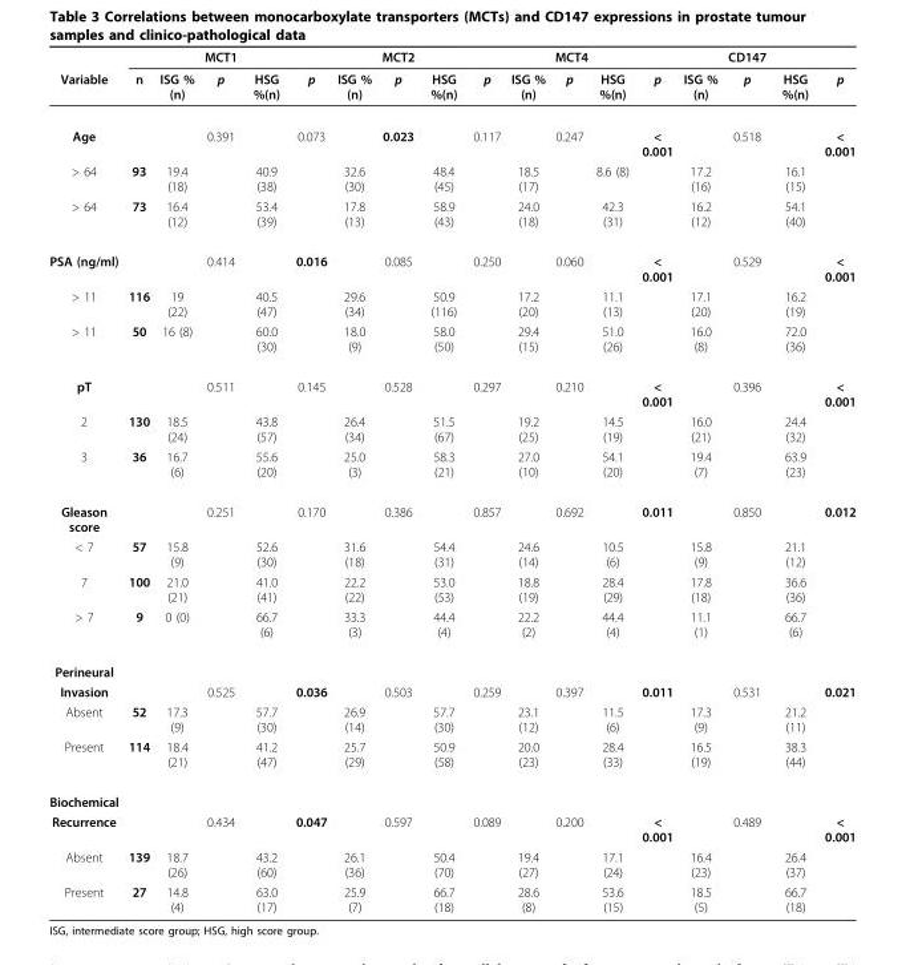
<table><thead><tr><td rowspan="2">Variable</td><td rowspan="2">n</td><td rowspan="2">ISG % (n)</td><td rowspan="2">MCT1 p</td><td rowspan="2">HSG %(n)</td><td rowspan="2">p</td><td rowspan="2">ISG % (n)</td><td rowspan="2">MCT2 p</td><td rowspan="2">HSG %(n)</td><td rowspan="2">p</td><td colspan="3">MCT4</td><td rowspan="2">p</td><td rowspan="2">ISG % (n)</td><td rowspan="2">CD147 p</td><td rowspan="2">HSG %(n)</td><td rowspan="2">p</td></tr><tr><td>ISG % (n)</td><td>p</td><td>HSG %(n)</td></tr></thead><tbody><tr><td>Age</td><td></td><td></td><td>0.391</td><td></td><td>0.073</td><td></td><td>0.023</td><td></td><td>0.117</td><td></td><td>0.247</td><td></td><td>&lt; 0.001</td><td></td><td>0.518</td><td></td><td>&lt; 0.001</td></tr><tr><td>&gt; 64</td><td>93</td><td>19.4 (18)</td><td></td><td>40.9 (38)</td><td></td><td>32.6 (30)</td><td></td><td>48.4 (45)</td><td></td><td>18.5 (17)</td><td></td><td>8.6 (8)</td><td></td><td>17.2 (16)</td><td></td><td>16.1 (15)</td><td></td></tr><tr><td>&gt; 64</td><td>73</td><td>16.4 (12)</td><td></td><td>53.4 (39)</td><td></td><td>17.8 (13)</td><td></td><td>58.9 (43)</td><td></td><td>24.0 (18)</td><td></td><td>42.3 (31)</td><td></td><td>16.2 (12)</td><td></td><td>54.1 (40)</td><td></td></tr><tr><td>PSA (ng/ml)</td><td></td><td></td><td>0.414</td><td></td><td>0.016</td><td></td><td>0.085</td><td></td><td>0.250</td><td></td><td>0.060</td><td></td><td>&lt; 0.001</td><td></td><td>0.529</td><td></td><td>&lt; 0.001</td></tr><tr><td>&gt; 11</td><td>116</td><td>19 (22)</td><td></td><td>40.5 (47)</td><td></td><td>29.6 (34)</td><td></td><td>50.9 (116)</td><td></td><td>17.2 (20)</td><td></td><td>11.1 (13)</td><td></td><td>17.1 (20)</td><td></td><td>16.2 (19)</td><td></td></tr><tr><td>&gt; 11</td><td>50</td><td>16 (8)</td><td></td><td>60.0 (30)</td><td></td><td>18.0 (9)</td><td></td><td>58.0 (50)</td><td></td><td>29.4 (15)</td><td></td><td>51.0 (26)</td><td></td><td>16.0 (8)</td><td></td><td>72.0 (36)</td><td></td></tr><tr><td>pT</td><td></td><td></td><td>0.511</td><td></td><td>0.145</td><td></td><td>0.528</td><td></td><td>0.297</td><td></td><td>0.210</td><td></td><td>&lt; 0.001</td><td></td><td>0.396</td><td></td><td>&lt; 0.001</td></tr><tr><td>2</td><td>130</td><td>18.5 (24)</td><td></td><td>43.8 (57)</td><td></td><td>26.4 (34)</td><td></td><td>51.5 (67)</td><td></td><td>19.2 (25)</td><td></td><td>14.5 (19)</td><td></td><td>16.0 (21)</td><td></td><td>24.4 (32)</td><td></td></tr><tr><td>3</td><td>36</td><td>16.7 (6)</td><td></td><td>55.6 (20)</td><td></td><td>25.0 (3)</td><td></td><td>58.3 (21)</td><td></td><td>27.0 (10)</td><td></td><td>54.1 (20)</td><td></td><td>19.4 (7)</td><td></td><td>63.9 (23)</td><td></td></tr><tr><td>Gleason score</td><td></td><td></td><td>0.251</td><td></td><td>0.170</td><td></td><td>0.386</td><td></td><td>0.857</td><td></td><td>0.692</td><td></td><td>0.011</td><td></td><td>0.850</td><td></td><td>0.012</td></tr><tr><td>&lt; 7</td><td>57</td><td>15.8 (9)</td><td></td><td>52.6 (30)</td><td></td><td>31.6 (18)</td><td></td><td>54.4 (31)</td><td></td><td>24.6 (14)</td><td></td><td>10.5 (6)</td><td></td><td>15.8 (9)</td><td></td><td>21.1 (12)</td><td></td></tr><tr><td>7</td><td>100</td><td>21.0 (21)</td><td></td><td>41.0 (41)</td><td></td><td>22.2 (22)</td><td></td><td>53.0 (53)</td><td></td><td>18.8 (19)</td><td></td><td>28.4 (29)</td><td></td><td>17.8 (18)</td><td></td><td>36.6 (36)</td><td></td></tr><tr><td>&gt; 7</td><td>9</td><td>0 (0)</td><td></td><td>66.7 (6)</td><td></td><td>33.3 (3)</td><td></td><td>44.4 (4)</td><td></td><td>22.2 (2)</td><td></td><td>44.4 (4)</td><td></td><td>11.1 (1)</td><td></td><td>66.7 (6)</td><td></td></tr><tr><td colspan="18">Perineural</td></tr><tr><td>Invasion</td><td></td><td></td><td>0.525</td><td></td><td>0.036</td><td></td><td>0.503</td><td></td><td>0.259</td><td></td><td>0.397</td><td></td><td>0.011</td><td></td><td>0.531</td><td></td><td>0.021</td></tr><tr><td>Absent</td><td>52</td><td>17.3 (9)</td><td></td><td>57.7 (30)</td><td></td><td>26.9 (14)</td><td></td><td>57.7 (30)</td><td></td><td>23.1 (12)</td><td></td><td>11.5 (6)</td><td></td><td>17.3 (9)</td><td></td><td>21.2 (11)</td><td></td></tr><tr><td>Present</td><td>114</td><td>18.4 (21)</td><td></td><td>41.2 (47)</td><td></td><td>25.7 (29)</td><td></td><td>50.9 (58)</td><td></td><td>20.0 (23)</td><td></td><td>28.4 (33)</td><td></td><td>16.5 (19)</td><td></td><td>38.3 (44)</td><td></td></tr><tr><td colspan="18">Biochemical</td></tr><tr><td>Recurrence</td><td></td><td></td><td>0.434</td><td></td><td>0.047</td><td></td><td>0.597</td><td></td><td>0.089</td><td></td><td>0.200</td><td></td><td>&lt; 0.001</td><td></td><td>0.489</td><td></td><td>&lt; 0.001</td></tr><tr><td>Absent</td><td>139</td><td>18.7 (26)</td><td></td><td>43.2 (60)</td><td></td><td>26.1 (36)</td><td></td><td>50.4 (70)</td><td></td><td>19.4 (27)</td><td></td><td>17.1 (24)</td><td></td><td>16.4 (23)</td><td></td><td>26.4 (37)</td><td></td></tr><tr><td>Present</td><td>27</td><td>14.8 (4)</td><td></td><td>63.0 (17)</td><td></td><td>25.9 (7)</td><td></td><td>66.7 (18)</td><td></td><td>28.6 (8)</td><td></td><td>53.6 (15)</td><td></td><td>18.5 (5)</td><td></td><td>66.7 (18)</td><td></td></tr></tbody></table>